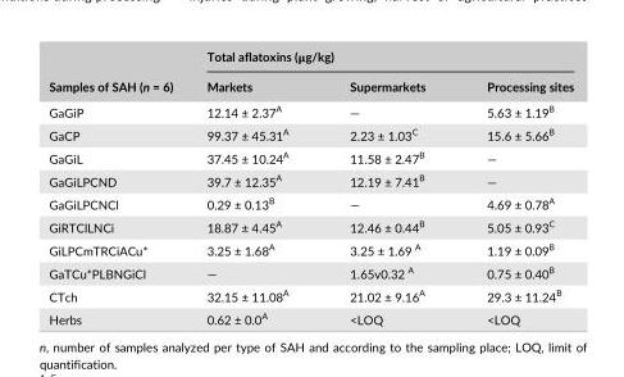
<table><thead><tr><td rowspan="2">Samples of SAH (n = 6)</td><td colspan="3">Total aflatoxins (μg/kg)</td></tr><tr><td>Markets</td><td>Supermarkets</td><td>Processing sites</td></tr></thead><tbody><tr><td>GaGiP</td><td>12.14 ± 2.37<sup>A</sup></td><td>—</td><td>5.63 ± 1.19<sup>B</sup></td></tr><tr><td>GaCP</td><td>99.37 ± 45.31<sup>A</sup></td><td>2.23 ± 1.03<sup>C</sup></td><td>15.6 ± 5.66<sup>B</sup></td></tr><tr><td>GaGiL</td><td>37.45 ± 10.24<sup>A</sup></td><td>11.58 ± 2.47<sup>B</sup></td><td>—</td></tr><tr><td>GaGiLPCND</td><td>39.7 ± 12.35<sup>A</sup></td><td>12.19 ± 7.41<sup>B</sup></td><td>—</td></tr><tr><td>GaGiLPCNCl</td><td>0.29 ± 0.13<sup>B</sup></td><td>—</td><td>4.69 ± 0.78<sup>A</sup></td></tr><tr><td>GiRTClLNCi</td><td>18.87 ± 4.45<sup>A</sup></td><td>12.46 ± 0.44<sup>B</sup></td><td>5.05 ± 0.93<sup>C</sup></td></tr><tr><td>GiLPCmTRCiACu*</td><td>3.25 ± 1.68<sup>A</sup></td><td>3.25 ± 1.69 A</td><td>1.19 ± 0.09<sup>B</sup></td></tr><tr><td>GaTCu*PLBNGiCl</td><td>—</td><td>1.65v0.32 A</td><td>0.75 ± 0.40<sup>B</sup></td></tr><tr><td>CTch</td><td>32.15 ± 11.08<sup>A</sup></td><td>21.02 ± 9.16<sup>A</sup></td><td>29.3 ± 11.24<sup>B</sup></td></tr><tr><td>Herbs</td><td>0.62 ± 0.0<sup>A</sup></td><td>&lt;LOQ</td><td>&lt;LOQ</td></tr></tbody></table>